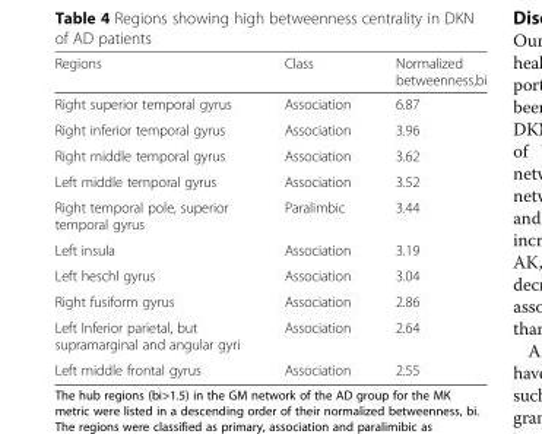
<table><thead><tr><td>Regions</td><td>Class</td><td>Normalized betweenness,bi</td></tr></thead><tbody><tr><td>Right superior temporal gyrus</td><td>Association</td><td>6.87</td></tr><tr><td>Right inferior temporal gyrus</td><td>Association</td><td>3.96</td></tr><tr><td>Right middle temporal gyrus</td><td>Association</td><td>3.62</td></tr><tr><td>Left middle temporal gyrus</td><td>Association</td><td>3.52</td></tr><tr><td>Right temporal pole, superior temporal gyrus</td><td>Paralimbic</td><td>3.44</td></tr><tr><td>Left insula</td><td>Association</td><td>3.19</td></tr><tr><td>Left heschl gyrus</td><td>Association</td><td>3.04</td></tr><tr><td>Right fusiform gyrus</td><td>Association</td><td>2.86</td></tr><tr><td>Left Inferior parietal, but supramarginal and angular gyri</td><td>Association</td><td>2.64</td></tr><tr><td>Left middle frontal gyrus</td><td>Association</td><td>2.55</td></tr></tbody></table>